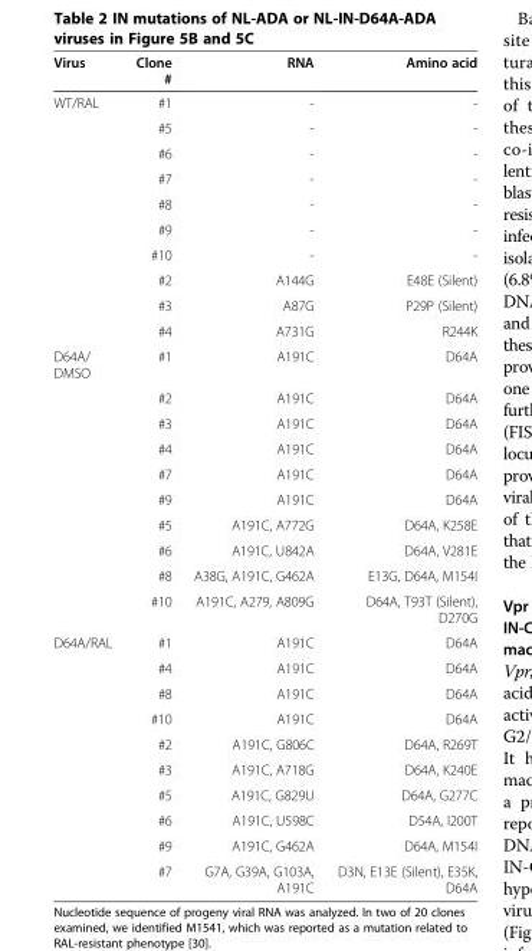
<table><thead><tr><td>Virus</td><td>Clone #</td><td>RNA</td><td>Amino acid</td></tr></thead><tbody><tr><td rowspan="10">WT/RAL</td><td>#1</td><td>-</td><td>-</td></tr><tr><td>#5</td><td>-</td><td>-</td></tr><tr><td>#6</td><td>-</td><td>-</td></tr><tr><td>#7</td><td>-</td><td>-</td></tr><tr><td>#8</td><td>-</td><td>-</td></tr><tr><td>#9</td><td>-</td><td>-</td></tr><tr><td>#10</td><td>-</td><td>-</td></tr><tr><td>#2</td><td>A144G</td><td>E48E (Silent)</td></tr><tr><td>#3</td><td>A87G</td><td>P29P (Silent)</td></tr><tr><td>#4</td><td>A731G</td><td>R244K</td></tr><tr><td rowspan="10">D64A/ DMSO</td><td>#1</td><td>A191C</td><td>D64A</td></tr><tr><td>#2</td><td>A191C</td><td>D64A</td></tr><tr><td>#3</td><td>A191C</td><td>D64A</td></tr><tr><td>#4</td><td>A191C</td><td>D64A</td></tr><tr><td>#7</td><td>A191C</td><td>D64A</td></tr><tr><td>#9</td><td>A191C</td><td>D64A</td></tr><tr><td>#5</td><td>A191C, A772G</td><td>D64A, K258E</td></tr><tr><td>#6</td><td>A191C, U842A</td><td>D64A, V281E</td></tr><tr><td>#8</td><td>A38G, A191C, G462A</td><td>E13G, D64A, M154I</td></tr><tr><td>#10</td><td>A191C, A279, A809G</td><td>D64A, T93T (Silent), D270G</td></tr><tr><td rowspan="10">D64A/RAL</td><td>#1</td><td>A191C</td><td>D64A</td></tr><tr><td>#4</td><td>A191C</td><td>D64A</td></tr><tr><td>#8</td><td>A191C</td><td>D64A</td></tr><tr><td>#10</td><td>A191C</td><td>D64A</td></tr><tr><td>#2</td><td>A191C, G806C</td><td>D64A, R269T</td></tr><tr><td>#3</td><td>A191C, A718G</td><td>D64A, K240E</td></tr><tr><td>#5</td><td>A191C, G829U</td><td>D64A, G277C</td></tr><tr><td>#6</td><td>A191C, U598C</td><td>D54A, I200T</td></tr><tr><td>#9</td><td>A191C, G462A</td><td>D64A, M154I</td></tr><tr><td>#7</td><td>G7A, G39A, G103A, A191C</td><td>D3N, E13E (Silent), E35K, D64A</td></tr></tbody></table>